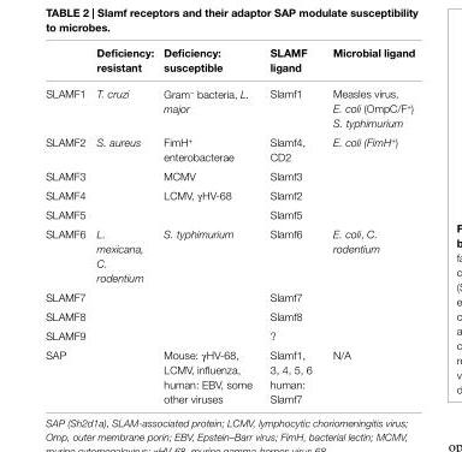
<table><thead><tr><td></td><td>Deficiency: resistant</td><td>Deficiency: susceptible</td><td>SLAMF ligand</td><td>Microbial ligand</td></tr></thead><tbody><tr><td>SLAMF1</td><td>T. cruzi</td><td>Gram<sup>−</sup> bacteria, L. major</td><td>Slamf1</td><td>Measles virus, E. coli (OmpC/F<sup>+</sup>) S. typhimurium</td></tr><tr><td>SLAMF2</td><td>S. aureus</td><td>FimH<sup>+</sup> enterobacterae</td><td>Slamf4, CD2</td><td>E. coli (FimH<sup>+</sup>)</td></tr><tr><td>SLAMF3</td><td></td><td>MCMV</td><td>Slamf3</td><td></td></tr><tr><td>SLAMF4</td><td></td><td>LCMV, γHV-68</td><td>Slamf2</td><td></td></tr><tr><td>SLAMF5</td><td></td><td></td><td>Slamf5</td><td></td></tr><tr><td>SLAMF6</td><td>L. mexicana, C. rodentium</td><td>S. typhimurium</td><td>Slamf6</td><td>E. coli, C. rodentium</td></tr><tr><td>SLAMF7</td><td></td><td></td><td>Slamf7</td><td></td></tr><tr><td>SLAMF8</td><td></td><td></td><td>Slamf8</td><td></td></tr><tr><td>SLAMF9</td><td></td><td></td><td>?</td><td></td></tr><tr><td>SAP</td><td></td><td>Mouse: γHV-68, LCMV, influenza, human: EBV, some other viruses</td><td>Slamf1, 3, 4, 5, 6 human: Slamf7</td><td>N/A</td></tr></tbody></table>